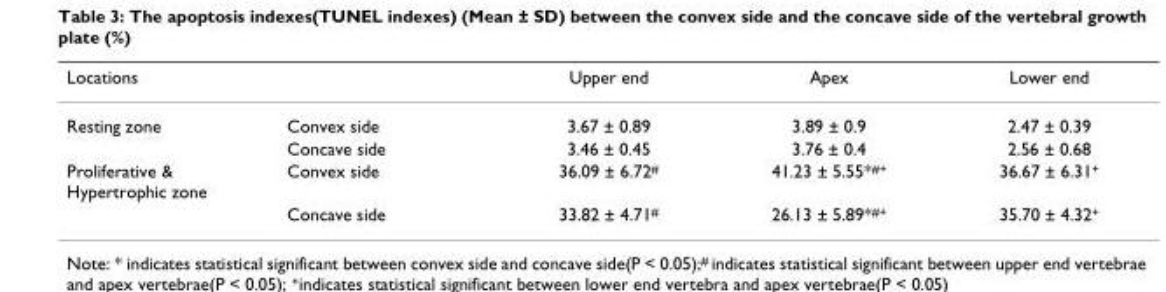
<table><thead><tr><td>Locations</td><td></td><td>Upper end</td><td>Apex</td><td>Lower end</td></tr></thead><tbody><tr><td rowspan="2">Resting zone</td><td>Convex side</td><td>3.67 ± 0.89</td><td>3.89 ± 0.9</td><td>2.47 ± 0.39</td></tr><tr><td>Concave side</td><td>3.46 ± 0.45</td><td>3.76 ± 0.4</td><td>2.56 ± 0.68</td></tr><tr><td rowspan="2">Proliferative &amp; Hypertrophic zone</td><td>Convex side</td><td>36.09 ± 6.72<sup>#</sup></td><td>41.23 ± 5.55*<sup>#+</sup></td><td>36.67 ± 6.31<sup>+</sup></td></tr><tr><td>Concave side</td><td>33.82 ± 4.71<sup>#</sup></td><td>26.13 ± 5.89*<sup>#+</sup></td><td>35.70 ± 4.32<sup>+</sup></td></tr></tbody></table>